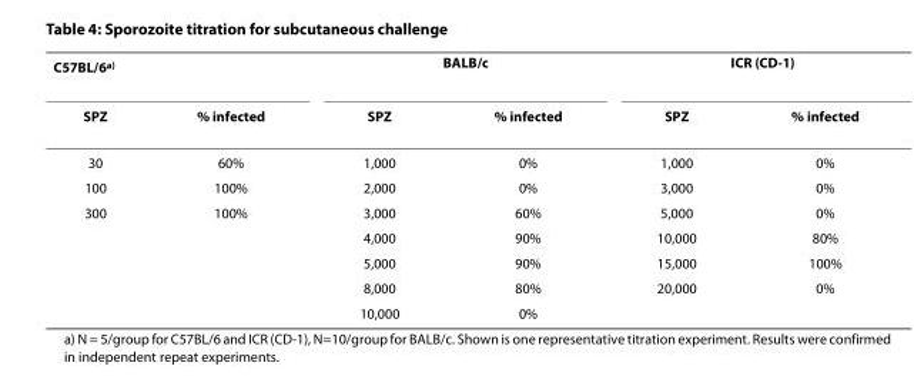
<table><thead><tr><td colspan="2">C57BL/6<sup>a)</sup></td><td colspan="2">BALB/c</td><td colspan="2">ICR (CD-1)</td></tr><tr><td>SPZ</td><td>% infected</td><td>SPZ</td><td>% infected</td><td>SPZ</td><td>% infected</td></tr></thead><tbody><tr><td>30</td><td>60%</td><td>1,000</td><td>0%</td><td>1,000</td><td>0%</td></tr><tr><td>100</td><td>100%</td><td>2,000</td><td>0%</td><td>3,000</td><td>0%</td></tr><tr><td rowspan="5">300</td><td>100%</td><td>3,000</td><td>60%</td><td>5,000</td><td>0%</td></tr><tr><td></td><td>4,000</td><td>90%</td><td>10,000</td><td>80%</td></tr><tr><td></td><td>5,000</td><td>90%</td><td>15,000</td><td>100%</td></tr><tr><td></td><td>8,000</td><td>80%</td><td>20,000</td><td>0%</td></tr><tr><td></td><td>10,000</td><td>0%</td><td></td><td></td></tr></tbody></table>